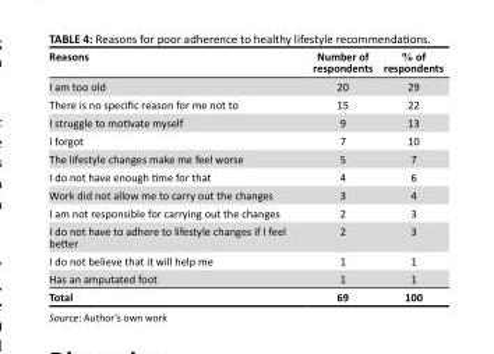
<table><thead><tr><td>Reasons</td><td>Number of respondents</td><td>% of respondents</td></tr></thead><tbody><tr><td>I am too old</td><td>20</td><td>29</td></tr><tr><td>There is no specific reason for me not to</td><td>15</td><td>22</td></tr><tr><td>I struggle to motivate myself</td><td>9</td><td>13</td></tr><tr><td>I forgot</td><td>7</td><td>10</td></tr><tr><td>The lifestyle changes make me feel worse</td><td>5</td><td>7</td></tr><tr><td>I do not have enough time for that</td><td>4</td><td>6</td></tr><tr><td>Work did not allow me to carry out the changes</td><td>3</td><td>4</td></tr><tr><td>I am not responsible for carrying out the changes</td><td>2</td><td>3</td></tr><tr><td>I do not have to adhere to lifestyle changes if I feel better</td><td>2</td><td>3</td></tr><tr><td>I do not believe that it will help me</td><td>1</td><td>1</td></tr><tr><td>Has an amputated foot</td><td>1</td><td>1</td></tr><tr><td>Total</td><td>69</td><td>100</td></tr></tbody></table>